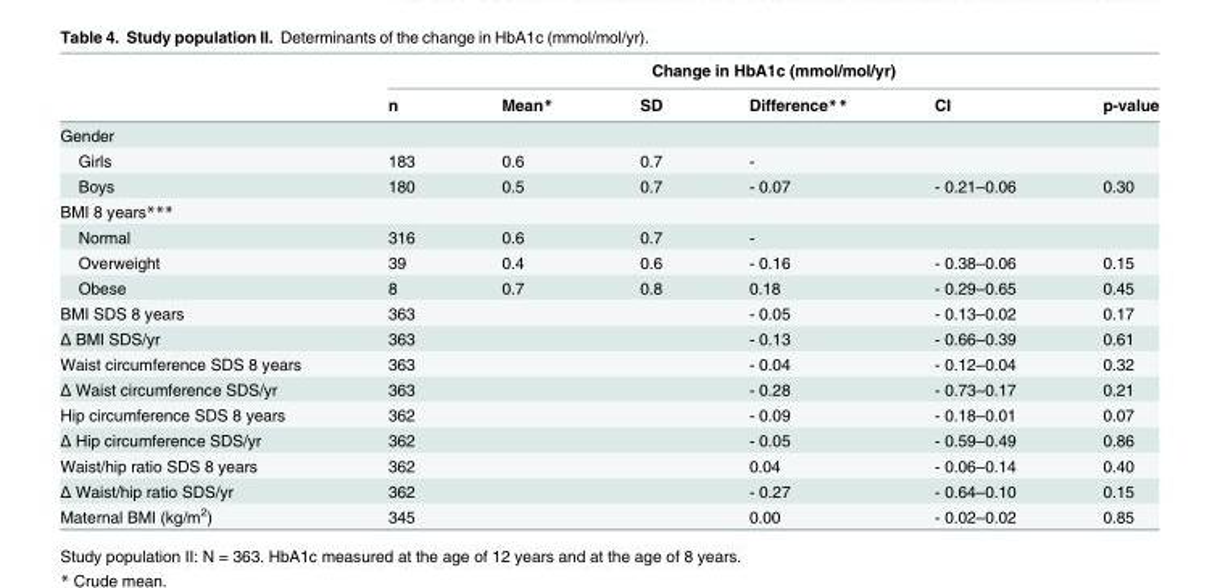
<table><thead><tr><td rowspan="2"></td><td colspan="6">Change in HbA1c (mmol/mol/yr)</td></tr><tr><td>n</td><td>Mean*</td><td>SD</td><td>Difference**</td><td>CI</td><td>p-value</td></tr></thead><tbody><tr><td colspan="7">Gender</td></tr><tr><td>Girls</td><td>183</td><td>0.6</td><td>0.7</td><td>-</td><td></td><td></td></tr><tr><td>Boys</td><td>180</td><td>0.5</td><td>0.7</td><td>- 0.07</td><td>- 0.21–0.06</td><td>0.30</td></tr><tr><td colspan="7">BMI 8 years***</td></tr><tr><td>Normal</td><td>316</td><td>0.6</td><td>0.7</td><td>-</td><td></td><td></td></tr><tr><td>Overweight</td><td>39</td><td>0.4</td><td>0.6</td><td>- 0.16</td><td>- 0.38–0.06</td><td>0.15</td></tr><tr><td>Obese</td><td>8</td><td>0.7</td><td>0.8</td><td>0.18</td><td>- 0.29–0.65</td><td>0.45</td></tr><tr><td>BMI SDS 8 years</td><td>363</td><td></td><td></td><td>- 0.05</td><td>- 0.13–0.02</td><td>0.17</td></tr><tr><td>Δ BMI SDS/yr</td><td>363</td><td></td><td></td><td>- 0.13</td><td>- 0.66–0.39</td><td>0.61</td></tr><tr><td>Waist circumference SDS 8 years</td><td>363</td><td></td><td></td><td>- 0.04</td><td>- 0.12–0.04</td><td>0.32</td></tr><tr><td>Δ Waist circumference SDS/yr</td><td>363</td><td></td><td></td><td>- 0.28</td><td>- 0.73–0.17</td><td>0.21</td></tr><tr><td>Hip circumference SDS 8 years</td><td>362</td><td></td><td></td><td>- 0.09</td><td>- 0.18–0.01</td><td>0.07</td></tr><tr><td>Δ Hip circumference SDS/yr</td><td>362</td><td></td><td></td><td>- 0.05</td><td>- 0.59–0.49</td><td>0.86</td></tr><tr><td>Waist/hip ratio SDS 8 years</td><td>362</td><td></td><td></td><td>0.04</td><td>- 0.06–0.14</td><td>0.40</td></tr><tr><td>Δ Waist/hip ratio SDS/yr</td><td>362</td><td></td><td></td><td>- 0.27</td><td>- 0.64–0.10</td><td>0.15</td></tr><tr><td>Maternal BMI (kg/m<sup>2</sup>)</td><td>345</td><td></td><td></td><td>0.00</td><td>- 0.02–0.02</td><td>0.85</td></tr></tbody></table>